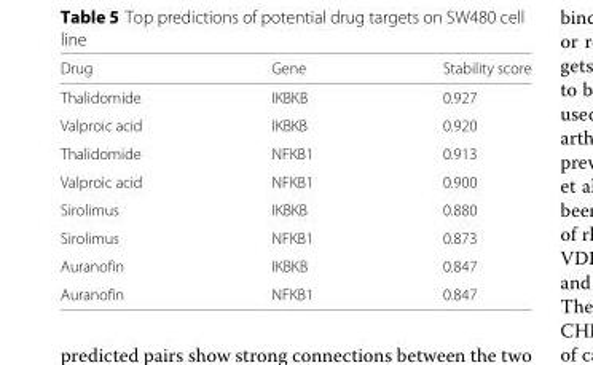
<table><thead><tr><td>Drug</td><td>Gene</td><td>Stability score</td></tr></thead><tbody><tr><td>Thalidomide</td><td>IKBKB</td><td>0.927</td></tr><tr><td>Valproic acid</td><td>IKBKB</td><td>0.920</td></tr><tr><td>Thalidomide</td><td>NFKB1</td><td>0.913</td></tr><tr><td>Valproic acid</td><td>NFKB1</td><td>0.900</td></tr><tr><td>Sirolimus</td><td>IKBKB</td><td>0.880</td></tr><tr><td>Sirolimus</td><td>NFKB1</td><td>0.873</td></tr><tr><td>Auranofin</td><td>IKBKB</td><td>0.847</td></tr><tr><td>Auranofin</td><td>NFKB1</td><td>0.847</td></tr></tbody></table>